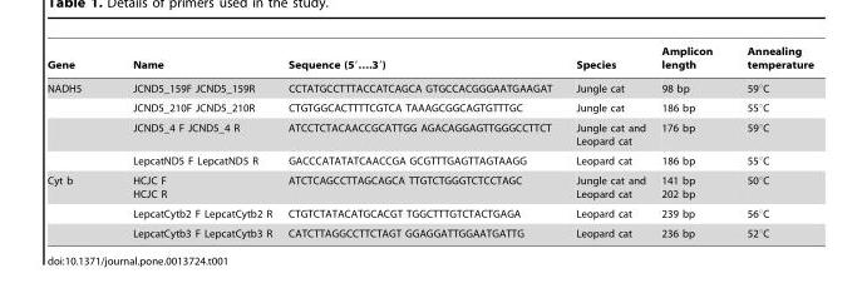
<table><thead><tr><td>Gene</td><td>Name</td><td>Sequence (5′….3′)</td><td>Species</td><td>Amplicon length</td><td>Annealing temperature</td></tr></thead><tbody><tr><td rowspan="4">NADH5</td><td>JCND5_159F JCND5_159R</td><td>CCTATGCCTTTACCATCAGCA GTGCCACGGGAATGAAGAT</td><td>Jungle cat</td><td>98 bp</td><td>59°C</td></tr><tr><td>JCND5_210F JCND5_210R</td><td>CTGTGGCACTTTTCGTCA TAAAGCGGCAGTGTTTGC</td><td>Jungle cat</td><td>186 bp</td><td>55°C</td></tr><tr><td>JCND5_4 F JCND5_4 R</td><td>ATCCTCTACAACCGCATTGG AGACAGGAGTTGGGCCTTCT</td><td>Jungle cat and Leopard cat</td><td>176 bp</td><td>59°C</td></tr><tr><td>LepcatND5 F LepcatND5 R</td><td>GACCCATATATCAACCGA GCGTTTGAGTTAGTAAGG</td><td>Leopard cat</td><td>186 bp</td><td>55°C</td></tr><tr><td rowspan="3">Cyt b</td><td>HCJC F HCJC R</td><td>ATCTCAGCCTTAGCAGCA TTGTCTGGGTCTCCTAGC</td><td>Jungle cat and Leopard cat</td><td>141 bp 202 bp</td><td>50°C</td></tr><tr><td>LepcatCytb2 F LepcatCytb2 R</td><td>CTGTCTATACATGCACGT TGGCTTTGTCTACTGAGA</td><td>Leopard cat</td><td>239 bp</td><td>56°C</td></tr><tr><td>LepcatCytb3 F LepcatCytb3 R</td><td>CATCTTAGGCCTTCTAGT GGAGGATTGGAATGATTG</td><td>Leopard cat</td><td>236 bp</td><td>52°C</td></tr></tbody></table>